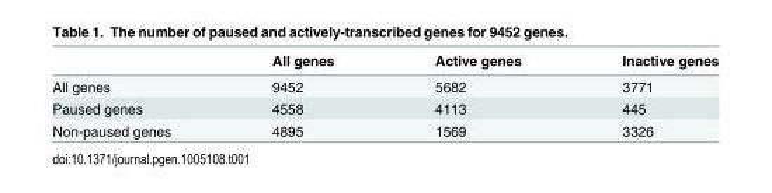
<table><thead><tr><td></td><td>All genes</td><td>Active genes</td><td>Inactive genes</td></tr></thead><tbody><tr><td>All genes</td><td>9452</td><td>5682</td><td>3771</td></tr><tr><td>Paused genes</td><td>4558</td><td>4113</td><td>445</td></tr><tr><td>Non-paused genes</td><td>4895</td><td>1569</td><td>3326</td></tr></tbody></table>